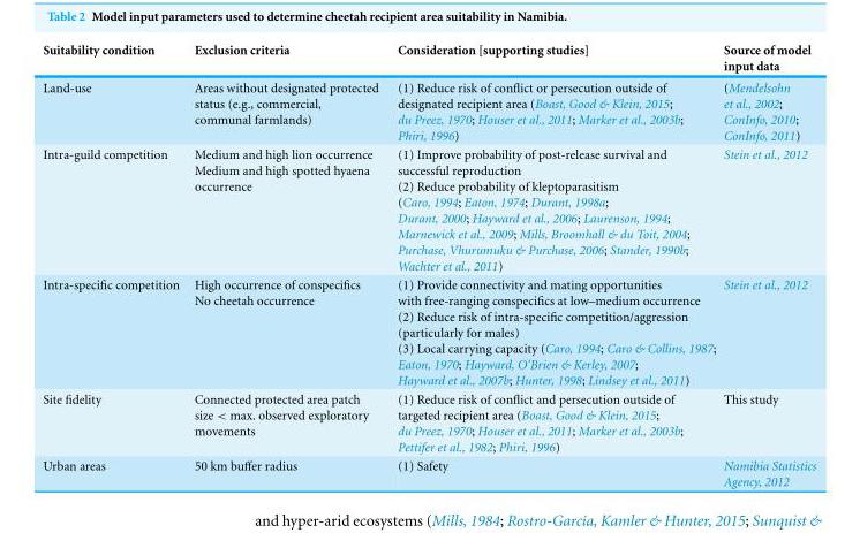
<table><thead><tr><td>Suitability condition</td><td>Exclusion criteria</td><td>Consideration [supporting studies]</td><td>Source of model input data</td></tr></thead><tbody><tr><td>Land-use</td><td>Areas without designated protected status (e.g., commercial, communal farmlands)</td><td>(1) Reduce risk of conflict or persecution outside of designated recipient area (Boast, Good &amp; Klein, 2015; du Preez, 1970; Houser et al., 2011; Marker et al., 2003b; Phiri, 1996)</td><td>(Mendelsohn et al., 2002; ConInfo, 2010; ConInfo, 2011)</td></tr><tr><td>Intra-guild competition</td><td>Medium and high lion occurrence Medium and high spotted hyaena occurrence</td><td>(1) Improve probability of post-release survival and successful reproduction (2) Reduce probability of kleptoparasitism (Caro, 1994; Eaton, 1974; Durant, 1998a; Durant, 2000; Hayward et al., 2006; Laurenson, 1994; Marnewick et al., 2009; Mills, Broomhall &amp; du Toit, 2004; Purchase, Vhurumuku &amp; Purchase, 2006; Stander, 1990b; Wachter et al., 2011)</td><td>Stein et al., 2012</td></tr><tr><td>Intra-specific competition</td><td>High occurrence of conspecifics No cheetah occurrence</td><td>(1) Provide connectivity and mating opportunities with free-ranging conspecifics at low–medium occurrence (2) Reduce risk of intra-specific competition/aggression (particularly for males) (3) Local carrying capacity (Caro, 1994; Caro &amp; Collins, 1987; Eaton, 1970; Hayward, O’Brien &amp; Kerley, 2007; Hayward et al., 2007b; Hunter, 1998; Lindsey et al., 2011)</td><td>Stein et al., 2012</td></tr><tr><td>Site fidelity</td><td>Connected protected area patch size &lt; max. observed exploratory movements</td><td>(1) Reduce risk of conflict and persecution outside of targeted recipient area (Boast, Good &amp; Klein, 2015; du Preez, 1970; Houser et al., 2011; Marker et al., 2003b; Pettifer et al., 1982; Phiri, 1996)</td><td>This study</td></tr><tr><td>Urban areas</td><td>50 km buffer radius</td><td>(1) Safety</td><td>Namibia Statistics Agency, 2012</td></tr></tbody></table>